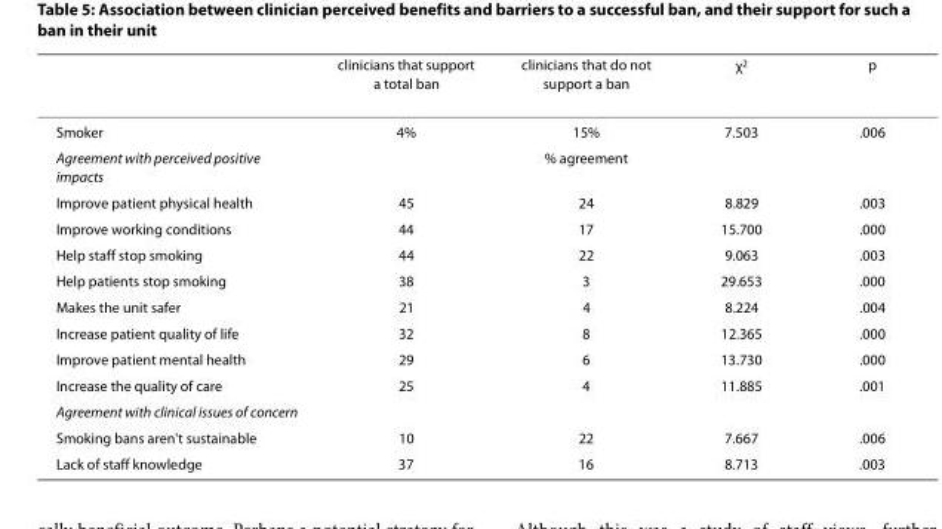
<table><thead><tr><td></td><td>clinicians that support a total ban</td><td>clinicians that do not support a ban</td><td>χ<sup>2</sup></td><td>p</td></tr></thead><tbody><tr><td>Smoker</td><td>4%</td><td>15%</td><td>7.503</td><td>.006</td></tr><tr><td>Agreement with perceived positive impacts</td><td></td><td>% agreement</td><td></td><td></td></tr><tr><td>Improve patient physical health</td><td>45</td><td>24</td><td>8.829</td><td>.003</td></tr><tr><td>Improve working conditions</td><td>44</td><td>17</td><td>15.700</td><td>.000</td></tr><tr><td>Help staff stop smoking</td><td>44</td><td>22</td><td>9.063</td><td>.003</td></tr><tr><td>Help patients stop smoking</td><td>38</td><td>3</td><td>29.653</td><td>.000</td></tr><tr><td>Makes the unit safer</td><td>21</td><td>4</td><td>8.224</td><td>.004</td></tr><tr><td>Increase patient quality of life</td><td>32</td><td>8</td><td>12.365</td><td>.000</td></tr><tr><td>Improve patient mental health</td><td>29</td><td>6</td><td>13.730</td><td>.000</td></tr><tr><td>Increase the quality of care</td><td>25</td><td>4</td><td>11.885</td><td>.001</td></tr><tr><td colspan="5">Agreement with clinical issues of concern</td></tr><tr><td>Smoking bans aren&#x27;t sustainable</td><td>10</td><td>22</td><td>7.667</td><td>.006</td></tr><tr><td>Lack of staff knowledge</td><td>37</td><td>16</td><td>8.713</td><td>.003</td></tr></tbody></table>